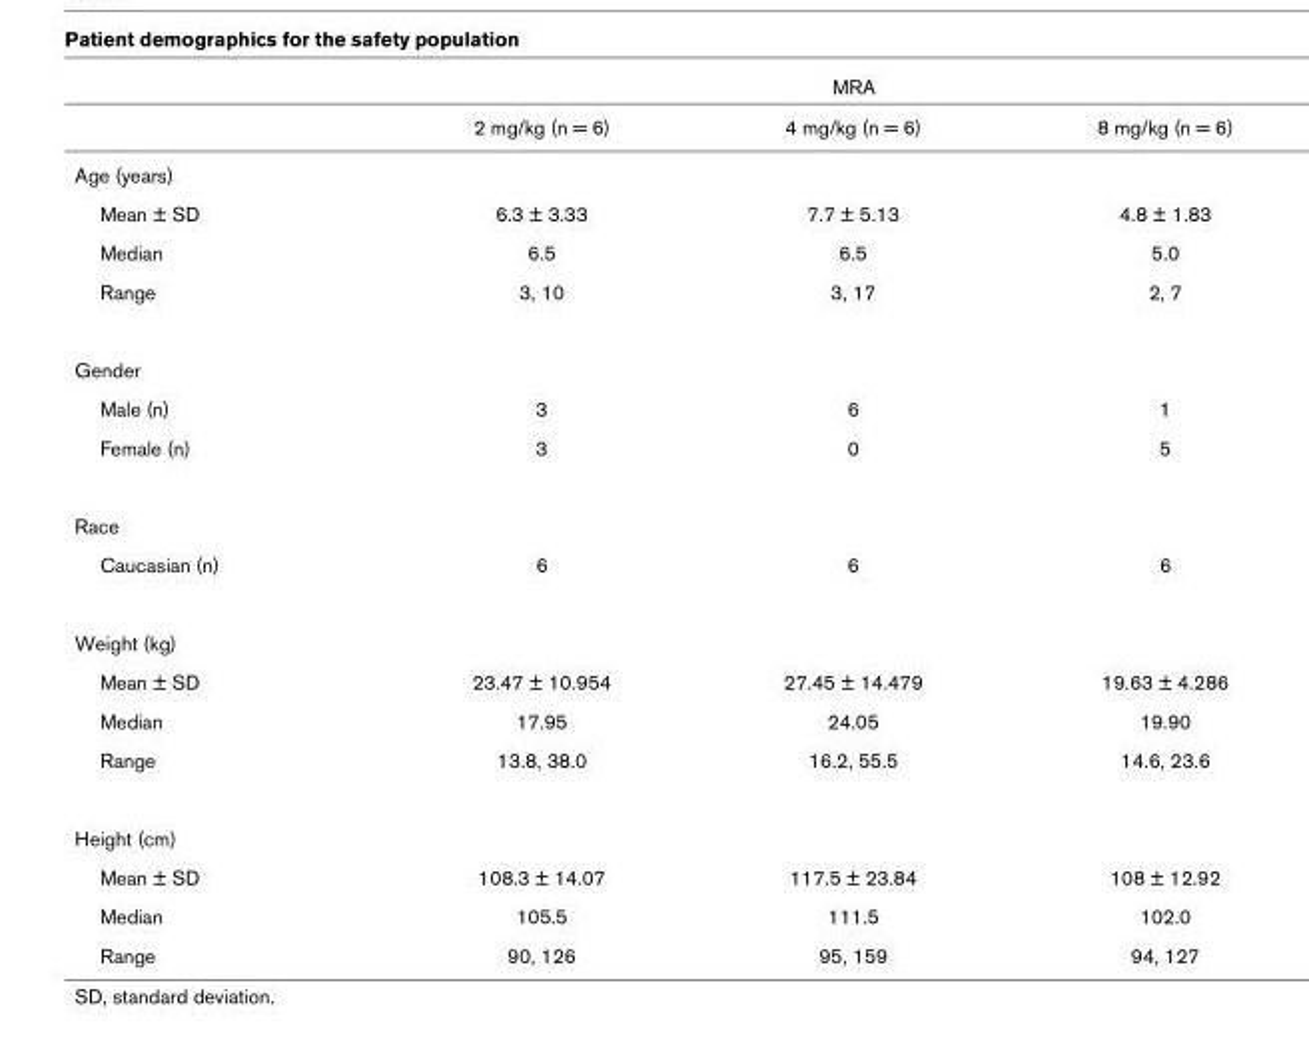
<table><thead><tr><td rowspan="2"></td><td colspan="3">MRA</td></tr><tr><td>2 mg/kg (n = 6)</td><td>4 mg/kg (n = 6)</td><td>8 mg/kg (n = 6)</td></tr></thead><tbody><tr><td colspan="4">Age (years)</td></tr><tr><td>Mean ± SD</td><td>6.3 ± 3.33</td><td>7.7 ± 5.13</td><td>4.8 ± 1.83</td></tr><tr><td>Median</td><td>6.5</td><td>6.5</td><td>5.0</td></tr><tr><td>Range</td><td>3, 10</td><td>3, 17</td><td>2, 7</td></tr><tr><td colspan="4">Gender</td></tr><tr><td>Male (n)</td><td>3</td><td>6</td><td>1</td></tr><tr><td>Female (n)</td><td>3</td><td>0</td><td>5</td></tr><tr><td colspan="4">Race</td></tr><tr><td>Caucasian (n)</td><td>6</td><td>6</td><td>6</td></tr><tr><td colspan="4">Weight (kg)</td></tr><tr><td>Mean ± SD</td><td>23.47 ± 10.954</td><td>27.45 ± 14.479</td><td>19.63 ± 4.286</td></tr><tr><td>Median</td><td>17.95</td><td>24.05</td><td>19.90</td></tr><tr><td>Range</td><td>13.8, 38.0</td><td>16.2, 55.5</td><td>14.6, 23.6</td></tr><tr><td colspan="4">Height (cm)</td></tr><tr><td>Mean ± SD</td><td>108.3 ± 14.07</td><td>117.5 ± 23.84</td><td>108 ± 12.92</td></tr><tr><td>Median</td><td>105.5</td><td>111.5</td><td>102.0</td></tr><tr><td>Range</td><td>90, 126</td><td>95, 159</td><td>94, 127</td></tr></tbody></table>